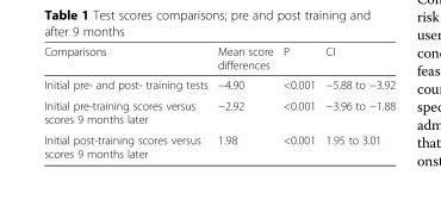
<table><thead><tr><td>Comparisons</td><td>Mean score differences</td><td>P</td><td>CI</td></tr></thead><tbody><tr><td>Initial pre- and post- training tests</td><td>−4.90</td><td>&lt;0.001</td><td>−5.88 to −3.92</td></tr><tr><td>Initial pre-training scores versus scores 9 months later</td><td>−2.92</td><td>&lt;0.001</td><td>−3.96 to −1.88</td></tr><tr><td>Initial post-training scores versus scores 9 months later</td><td>1.98</td><td>&lt;0.001</td><td>1.95 to 3.01</td></tr></tbody></table>